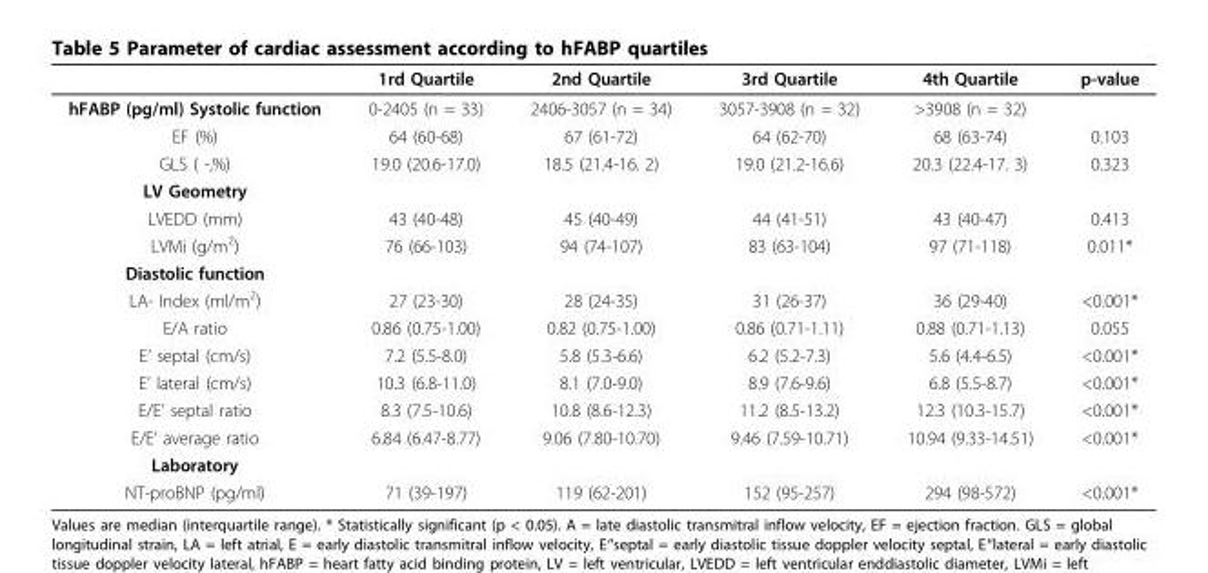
<table><thead><tr><td></td><td>1rd Quartile</td><td>2nd Quartile</td><td>3rd Quartile</td><td>4th Quartile</td><td>p-value</td></tr></thead><tbody><tr><td>hFABP (pg/ml) Systolic function</td><td>0-2405 (n = 33)</td><td>2406-3057 (n = 34)</td><td>3057-3908 (n = 32)</td><td>&gt;3908 (n = 32)</td><td></td></tr><tr><td>EF (%)</td><td>64 (60-68)</td><td>67 (61-72)</td><td>64 (62-70)</td><td>68 (63-74)</td><td>0.103</td></tr><tr><td>GLS ( -,%)</td><td>19.0 (20.6-17.0)</td><td>18.5 (21.4-16. 2)</td><td>19.0 (21.2-16.6)</td><td>20.3 (22.4-17. 3)</td><td>0.323</td></tr><tr><td colspan="6">LV Geometry</td></tr><tr><td>LVEDD (mm)</td><td>43 (40-48)</td><td>45 (40-49)</td><td>44 (41-51)</td><td>43 (40-47)</td><td>0.413</td></tr><tr><td>LVMi (g/m<sup>2</sup>)</td><td>76 (66-103)</td><td>94 (74-107)</td><td>83 (63-104)</td><td>97 (71-118)</td><td>0.011*</td></tr><tr><td colspan="6">Diastolic function</td></tr><tr><td>LA- Index (ml/m<sup>2</sup>)</td><td>27 (23-30)</td><td>28 (24-35)</td><td>31 (26-37)</td><td>36 (29-40)</td><td>&lt;0.001*</td></tr><tr><td>E/A ratio</td><td>0.86 (0.75-1.00)</td><td>0.82 (0.75-1.00)</td><td>0.86 (0.71-1.11)</td><td>0.88 (0.71-1.13)</td><td>0.055</td></tr><tr><td>E’ septal (cm/s)</td><td>7.2 (5.5-8.0)</td><td>5.8 (5.3-6.6)</td><td>6.2 (5.2-7.3)</td><td>5.6 (4.4-6.5)</td><td>&lt;0.001*</td></tr><tr><td>E’ lateral (cm/s)</td><td>10.3 (6.8-11.0)</td><td>8.1 (7.0-9.0)</td><td>8.9 (7.6-9.6)</td><td>6.8 (5.5-8.7)</td><td>&lt;0.001*</td></tr><tr><td>E/E’ septal ratio</td><td>8.3 (7.5-10.6)</td><td>10.8 (8.6-12.3)</td><td>11.2 (8.5-13.2)</td><td>12.3 (10.3-15.7)</td><td>&lt;0.001*</td></tr><tr><td>E/E’ average ratio</td><td>6.84 (6.47-8.77)</td><td>9.06 (7.80-10.70)</td><td>9.46 (7.59-10.71)</td><td>10.94 (9.33-14.51)</td><td>&lt;0.001*</td></tr><tr><td colspan="6">Laboratory</td></tr><tr><td>NT-proBNP (pg/ml)</td><td>71 (39-197)</td><td>119 (62-201)</td><td>152 (95-257)</td><td>294 (98-572)</td><td>&lt;0.001*</td></tr></tbody></table>